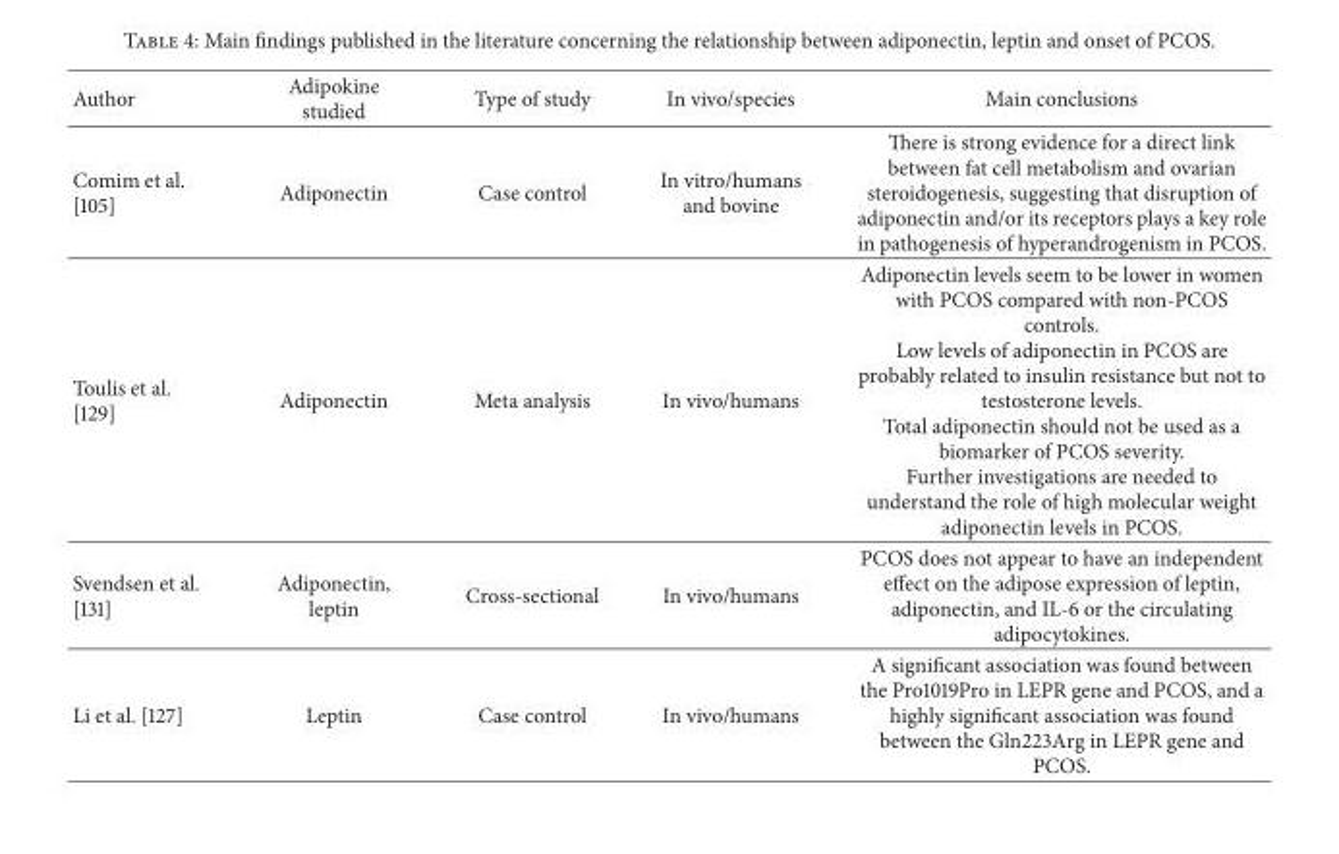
<table><thead><tr><td>Author</td><td>Adipokine studied</td><td>Type of study</td><td>In vivo/species</td><td>Main conclusions</td></tr></thead><tbody><tr><td>Comim et al. [105]</td><td>Adiponectin</td><td>Case control</td><td>In vitro/humans and bovine</td><td>There is strong evidence for a direct link between fat cell metabolism and ovarian steroidogenesis, suggesting that disruption of adiponectin and/or its receptors plays a key role in pathogenesis of hyperandrogenism in PCOS.</td></tr><tr><td>Toulis et al. [129]</td><td>Adiponectin</td><td>Meta analysis</td><td>In vivo/humans</td><td>Adiponectin levels seem to be lower in women with PCOS compared with non-PCOS controls. Low levels of adiponectin in PCOS are probably related to insulin resistance but not to testosterone levels. Total adiponectin should not be used as a biomarker of PCOS severity. Further investigations are needed to understand the role of high molecular weight adiponectin levels in PCOS.</td></tr><tr><td>Svendsen et al. [131]</td><td>Adiponectin, leptin</td><td>Cross-sectional</td><td>In vivo/humans</td><td>PCOS does not appear to have an independent effect on the adipose expression of leptin, adiponectin, and IL-6 or the circulating adipocytokines.</td></tr><tr><td>Li et al. [127]</td><td>Leptin</td><td>Case control</td><td>In vivo/humans</td><td>A significant association was found between the Pro1019Pro in LEPR gene and PCOS, and a highly significant association was found between the Gln223Arg in LEPR gene and PCOS.</td></tr></tbody></table>